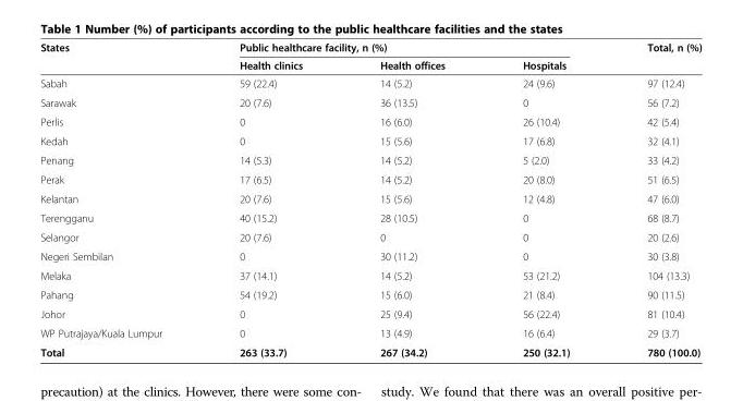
<table><thead><tr><td rowspan="2">States</td><td colspan="3">Public healthcare facility, n (%)</td><td rowspan="2">Total, n (%)</td></tr><tr><td>Health clinics</td><td>Health offices</td><td>Hospitals</td></tr></thead><tbody><tr><td>Sabah</td><td>59 (22.4)</td><td>14 (5.2)</td><td>24 (9.6)</td><td>97 (12.4)</td></tr><tr><td>Sarawak</td><td>20 (7.6)</td><td>36 (13.5)</td><td>0</td><td>56 (7.2)</td></tr><tr><td>Perlis</td><td>0</td><td>16 (6.0)</td><td>26 (10.4)</td><td>42 (5.4)</td></tr><tr><td>Kedah</td><td>0</td><td>15 (5.6)</td><td>17 (6.8)</td><td>32 (4.1)</td></tr><tr><td>Penang</td><td>14 (5.3)</td><td>14 (5.2)</td><td>5 (2.0)</td><td>33 (4.2)</td></tr><tr><td>Perak</td><td>17 (6.5)</td><td>14 (5.2)</td><td>20 (8.0)</td><td>51 (6.5)</td></tr><tr><td>Kelantan</td><td>20 (7.6)</td><td>15 (5.6)</td><td>12 (4.8)</td><td>47 (6.0)</td></tr><tr><td>Terengganu</td><td>40 (15.2)</td><td>28 (10.5)</td><td>0</td><td>68 (8.7)</td></tr><tr><td>Selangor</td><td>20 (7.6)</td><td>0</td><td>0</td><td>20 (2.6)</td></tr><tr><td>Negeri Sembilan</td><td>0</td><td>30 (11.2)</td><td>0</td><td>30 (3.8)</td></tr><tr><td>Melaka</td><td>37 (14.1)</td><td>14 (5.2)</td><td>53 (21.2)</td><td>104 (13.3)</td></tr><tr><td>Pahang</td><td>54 (19.2)</td><td>15 (6.0)</td><td>21 (8.4)</td><td>90 (11.5)</td></tr><tr><td>Johor</td><td>0</td><td>25 (9.4)</td><td>56 (22.4)</td><td>81 (10.4)</td></tr><tr><td>WP Putrajaya/Kuala Lumpur</td><td>0</td><td>13 (4.9)</td><td>16 (6.4)</td><td>29 (3.7)</td></tr><tr><td>Total</td><td>263 (33.7)</td><td>267 (34.2)</td><td>250 (32.1)</td><td>780 (100.0)</td></tr></tbody></table>